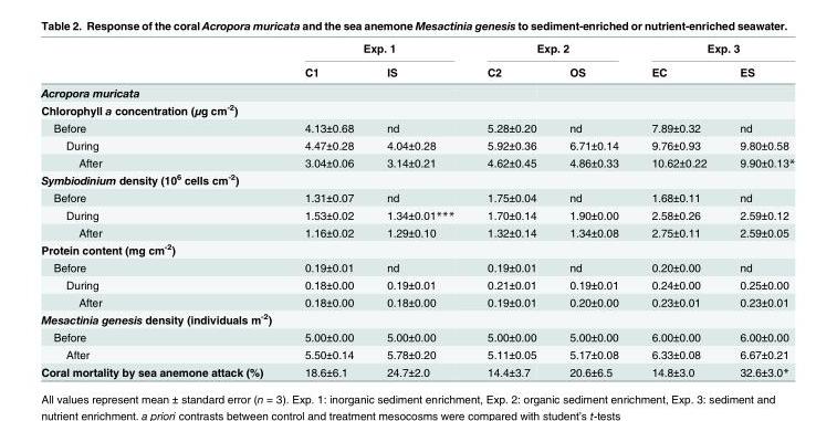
<table><thead><tr><td rowspan="2"></td><td colspan="2">Exp. 1</td><td colspan="2">Exp. 2</td><td colspan="2">Exp. 3</td></tr><tr><td>C1</td><td>IS</td><td>C2</td><td>OS</td><td>EC</td><td>ES</td></tr></thead><tbody><tr><td colspan="7">Acropora muricata</td></tr><tr><td colspan="7">Chlorophyll a concentration (μg cm<sup>-2</sup>)</td></tr><tr><td>Before</td><td>4.13±0.68</td><td>nd</td><td>5.28±0.20</td><td>nd</td><td>7.89±0.32</td><td>nd</td></tr><tr><td>During</td><td>4.47±0.28</td><td>4.04±0.28</td><td>5.92±0.36</td><td>6.71±0.14</td><td>9.76±0.93</td><td>9.80±0.58</td></tr><tr><td>After</td><td>3.04±0.06</td><td>3.14±0.21</td><td>4.62±0.45</td><td>4.86±0.33</td><td>10.62±0.22</td><td>9.90±0.13*</td></tr><tr><td colspan="7">Symbiodinium density (10<sup>6</sup> cells cm<sup>-2</sup>)</td></tr><tr><td>Before</td><td>1.31±0.07</td><td>nd</td><td>1.75±0.04</td><td>nd</td><td>1.68±0.11</td><td>nd</td></tr><tr><td>During</td><td>1.53±0.02</td><td>1.34±0.01***</td><td>1.70±0.14</td><td>1.90±0.00</td><td>2.58±0.26</td><td>2.59±0.12</td></tr><tr><td>After</td><td>1.16±0.02</td><td>1.29±0.10</td><td>1.32±0.14</td><td>1.34±0.08</td><td>2.75±0.11</td><td>2.59±0.05</td></tr><tr><td colspan="7">Protein content (mg cm<sup>-2</sup>)</td></tr><tr><td>Before</td><td>0.19±0.01</td><td>nd</td><td>0.19±0.01</td><td>nd</td><td>0.20±0.00</td><td>nd</td></tr><tr><td>During</td><td>0.18±0.00</td><td>0.19±0.01</td><td>0.21±0.01</td><td>0.19±0.01</td><td>0.24±0.00</td><td>0.25±0.00</td></tr><tr><td>After</td><td>0.18±0.00</td><td>0.18±0.00</td><td>0.19±0.01</td><td>0.20±0.00</td><td>0.23±0.01</td><td>0.23±0.01</td></tr><tr><td colspan="7">Mesactinia genesis density (individuals m<sup>-2</sup>)</td></tr><tr><td>Before</td><td>5.00±0.00</td><td>5.00±0.00</td><td>5.00±0.00</td><td>5.00±0.00</td><td>6.00±0.00</td><td>6.00±0.00</td></tr><tr><td>After</td><td>5.50±0.14</td><td>5.78±0.20</td><td>5.11±0.05</td><td>5.17±0.08</td><td>6.33±0.08</td><td>6.67±0.21</td></tr><tr><td>Coral mortality by sea anemone attack (%)</td><td>18.6±6.1</td><td>24.7±2.0</td><td>14.4±3.7</td><td>20.6±6.5</td><td>14.8±3.0</td><td>32.6±3.0*</td></tr></tbody></table>